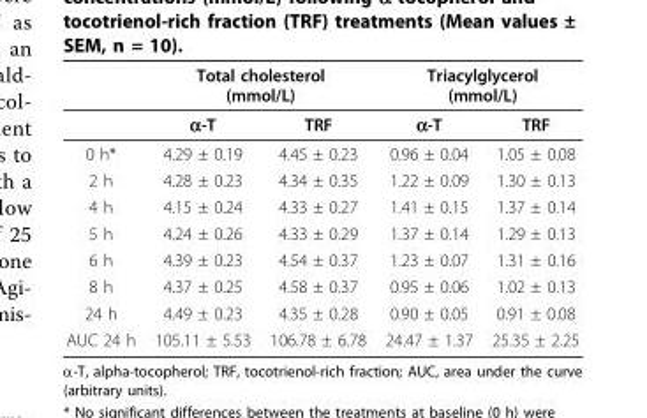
<table><thead><tr><td rowspan="2"></td><td colspan="2">Total cholesterol (mmol/L)</td><td colspan="2">Triacylglycerol (mmol/L)</td></tr><tr><td>α-T</td><td>TRF</td><td>α-T</td><td>TRF</td></tr></thead><tbody><tr><td>0 h*</td><td>4.29 ± 0.19</td><td>4.45 ± 0.23</td><td>0.96 ± 0.04</td><td>1.05 ± 0.08</td></tr><tr><td>2 h</td><td>4.28 ± 0.23</td><td>4.34 ± 0.35</td><td>1.22 ± 0.09</td><td>1.30 ± 0.13</td></tr><tr><td>4 h</td><td>4.15 ± 0.24</td><td>4.33 ± 0.27</td><td>1.41 ± 0.15</td><td>1.37 ± 0.14</td></tr><tr><td>5 h</td><td>4.24 ± 0.26</td><td>4.33 ± 0.29</td><td>1.37 ± 0.14</td><td>1.29 ± 0.13</td></tr><tr><td>6 h</td><td>4.39 ± 0.23</td><td>4.54 ± 0.37</td><td>1.23 ± 0.07</td><td>1.31 ± 0.16</td></tr><tr><td>8 h</td><td>4.37 ± 0.25</td><td>4.58 ± 0.37</td><td>0.95 ± 0.06</td><td>1.02 ± 0.13</td></tr><tr><td>24 h</td><td>4.49 ± 0.23</td><td>4.35 ± 0.28</td><td>0.90 ± 0.05</td><td>0.91 ± 0.08</td></tr><tr><td>AUC 24 h</td><td>105.11 ± 5.53</td><td>106.78 ± 6.78</td><td>24.47 ± 1.37</td><td>25.35 ± 2.25</td></tr></tbody></table>